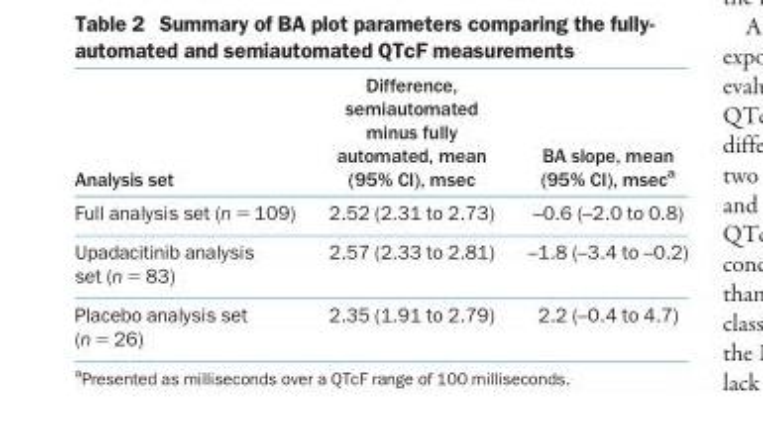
<table><thead><tr><td>Analysis set</td><td>Difference, semiautomated minus fully automated, mean (95% CI), msec</td><td>BA slope, mean (95% CI), msec<sup>a</sup></td></tr></thead><tbody><tr><td>Full analysis set (n = 109)</td><td>2.52 (2.31 to 2.73)</td><td>–0.6 (–2.0 to 0.8)</td></tr><tr><td>Upadacitinib analysis set (n = 83)</td><td>2.57 (2.33 to 2.81)</td><td>–1.8 (–3.4 to –0.2)</td></tr><tr><td>Placebo analysis set (n = 26)</td><td>2.35 (1.91 to 2.79)</td><td>2.2 (–0.4 to 4.7)</td></tr></tbody></table>